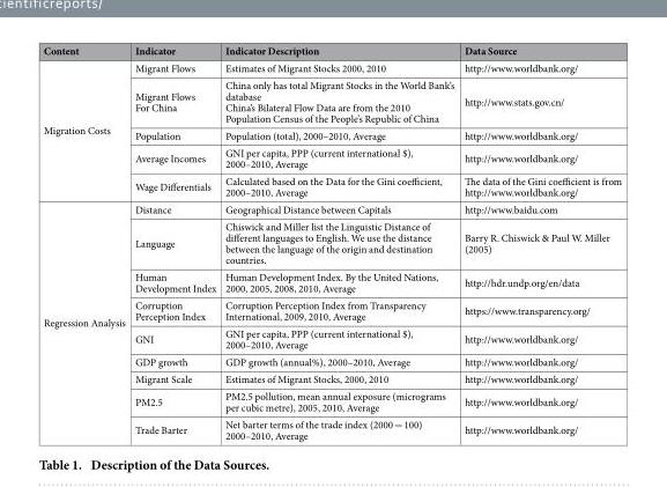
<table><thead><tr><td>Content</td><td>Indicator</td><td>Indicator Description</td><td>Data Source</td></tr></thead><tbody><tr><td rowspan="5">Migration Costs</td><td>Migrant Flows</td><td>Estimates of Migrant Stocks 2000, 2010</td><td>http://www.worldbank.org/</td></tr><tr><td>Migrant Flows For China</td><td>China only has total Migrant Stocks in the World Bank’s database China’s Bilateral Flow Data are from the 2010 Population Census of the People’s Republic of China</td><td>http://www.stats.gov.cn/</td></tr><tr><td>Population</td><td>Population (total), 2000–2010, Average</td><td>http://www.worldbank.org/</td></tr><tr><td>Average Incomes</td><td>GNI per capita, PPP (current international $), 2000–2010, Average</td><td>http://www.worldbank.org/</td></tr><tr><td>Wage Differentials</td><td>Calculated based on the Data for the Gini coefficient, 2000–2010, Average</td><td>The data of the Gini coefficient is from http://www.worldbank.org/</td></tr><tr><td rowspan="9">Regression Analysis</td><td>Distance</td><td>Geographical Distance between Capitals</td><td>http://www.baidu.com</td></tr><tr><td>Language</td><td>Chiswick and Miller list the Linguistic Distance of different languages to English. We use the distance between the language of the origin and destination countries.</td><td>Barry R. Chiswick &amp; Paul W. Miller (2005)</td></tr><tr><td>Human Development Index</td><td>Human Development Index. By the United Nations, 2000, 2005, 2008, 2010, Average</td><td>http://hdr.undp.org/en/data</td></tr><tr><td>Corruption Perception Index</td><td>Corruption Perception Index from Transparency International, 2009, 2010, Average</td><td>https://www.transparency.org/</td></tr><tr><td>GNI</td><td>GNI per capita, PPP (current international $), 2000–2010, Average</td><td>http://www.worldbank.org/</td></tr><tr><td>GDP growth</td><td>GDP growth (annual%), 2000–2010, Average</td><td>http://www.worldbank.org/</td></tr><tr><td>Migrant Scale</td><td>Estimates of Migrant Stocks, 2000, 2010</td><td>http://www.worldbank.org/</td></tr><tr><td>PM2.5</td><td>PM2.5 pollution, mean annual exposure (micrograms per cubic metre), 2005, 2010, Average</td><td>http://www.worldbank.org/</td></tr><tr><td>Trade Barter</td><td>Net barter terms of the trade index (2000 = 100) 2000–2010, Average</td><td>http://www.worldbank.org/</td></tr></tbody></table>